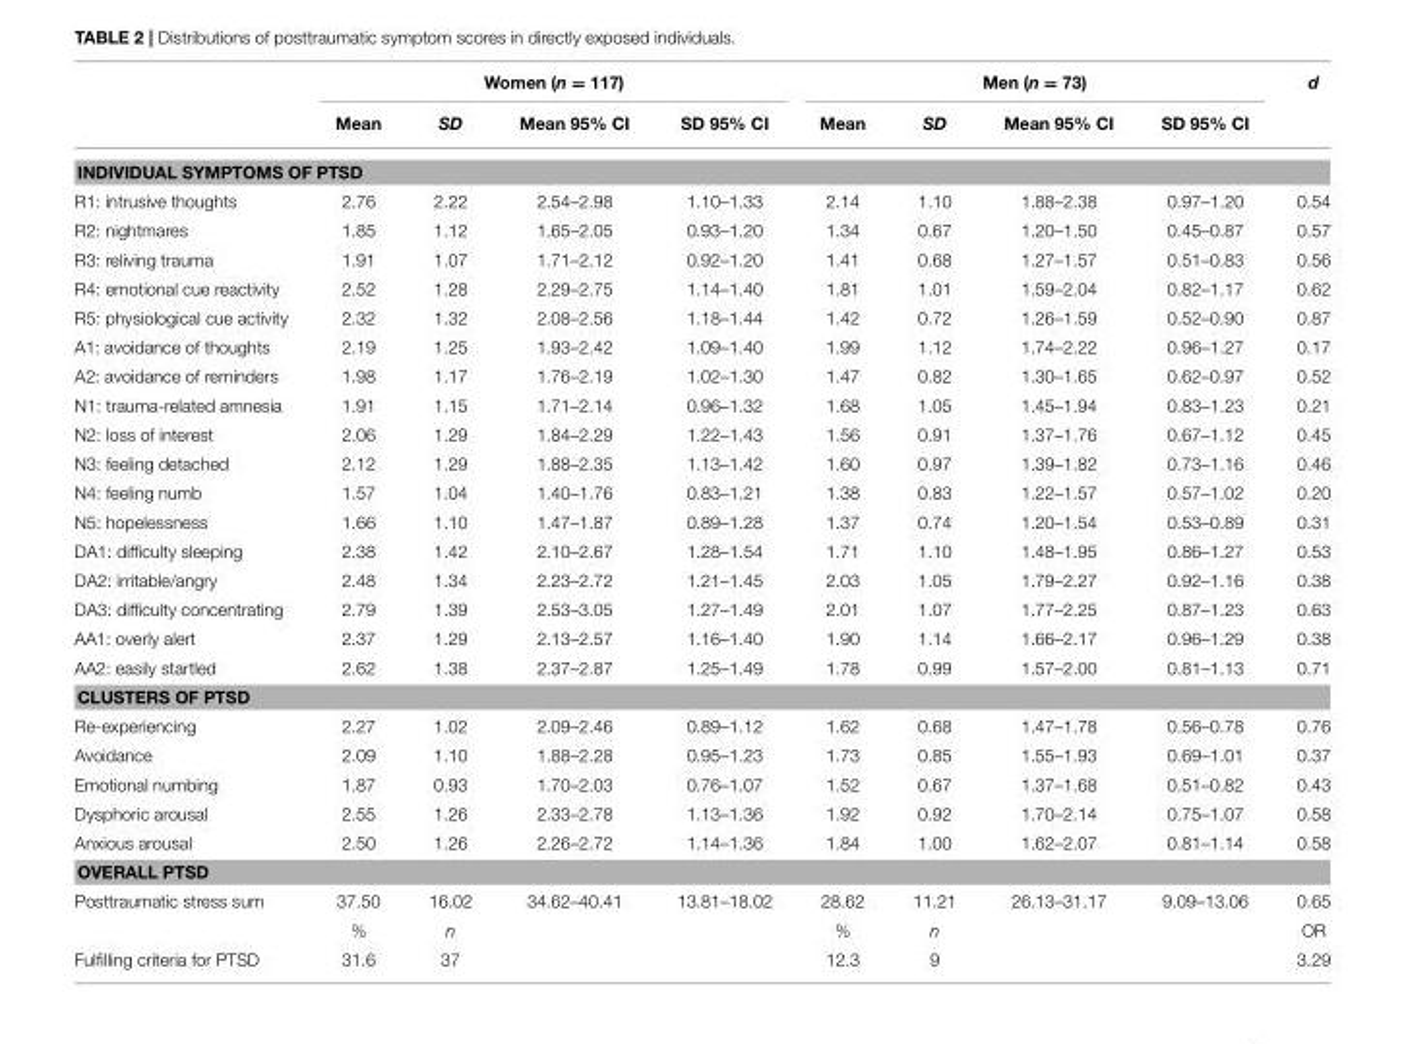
<table><thead><tr><td rowspan="2"></td><td colspan="4">Women (n = 117)</td><td colspan="4">Men (n = 73)</td><td rowspan="2">d</td></tr><tr><td>Mean</td><td>SD</td><td>Mean 95% CI</td><td>SD 95% CI</td><td>Mean</td><td>SD</td><td>Mean 95% CI</td><td>SD 95% CI</td></tr></thead><tbody><tr><td colspan="10">INDIVIDUAL SYMPTOMS OF PTSD</td></tr><tr><td>R1: intrusive thoughts</td><td>2.76</td><td>2.22</td><td>2.54–2.98</td><td>1.10–1.33</td><td>2.14</td><td>1.10</td><td>1.88–2.38</td><td>0.97–1.20</td><td>0.54</td></tr><tr><td>R2: nightmares</td><td>1.85</td><td>1.12</td><td>1.65–2.05</td><td>0.93–1.20</td><td>1.34</td><td>0.67</td><td>1.20–1.50</td><td>0.45–0.87</td><td>0.57</td></tr><tr><td>R3: reliving trauma</td><td>1.91</td><td>1.07</td><td>1.71–2.12</td><td>0.92–1.20</td><td>1.41</td><td>0.68</td><td>1.27–1.57</td><td>0.51–0.83</td><td>0.56</td></tr><tr><td>R4: emotional cue reactivity</td><td>2.52</td><td>1.28</td><td>2.29–2.75</td><td>1.14–1.40</td><td>1.81</td><td>1.01</td><td>1.59–2.04</td><td>0.82–1.17</td><td>0.62</td></tr><tr><td>R5: physiological cue activity</td><td>2.32</td><td>1.32</td><td>2.08–2.56</td><td>1.18–1.44</td><td>1.42</td><td>0.72</td><td>1.26–1.59</td><td>0.52–0.90</td><td>0.87</td></tr><tr><td>A1: avoidance of thoughts</td><td>2.19</td><td>1.25</td><td>1.93–2.42</td><td>1.09–1.40</td><td>1.99</td><td>1.12</td><td>1.74–2.22</td><td>0.96–1.27</td><td>0.17</td></tr><tr><td>A2: avoidance of reminders</td><td>1.98</td><td>1.17</td><td>1.76–2.19</td><td>1.02–1.30</td><td>1.47</td><td>0.82</td><td>1.30–1.65</td><td>0.62–0.97</td><td>0.52</td></tr><tr><td>N1: trauma-related amnesia</td><td>1.91</td><td>1.15</td><td>1.71–2.14</td><td>0.96–1.32</td><td>1.68</td><td>1.05</td><td>1.45–1.94</td><td>0.83–1.23</td><td>0.21</td></tr><tr><td>N2: loss of interest</td><td>2.06</td><td>1.29</td><td>1.84–2.29</td><td>1.22–1.43</td><td>1.56</td><td>0.91</td><td>1.37–1.76</td><td>0.67–1.12</td><td>0.45</td></tr><tr><td>N3: feeling detached</td><td>2.12</td><td>1.29</td><td>1.88–2.35</td><td>1.13–1.42</td><td>1.60</td><td>0.97</td><td>1.39–1.82</td><td>0.73–1.16</td><td>0.46</td></tr><tr><td>N4: feeling numb</td><td>1.57</td><td>1.04</td><td>1.40–1.76</td><td>0.83–1.21</td><td>1.38</td><td>0.83</td><td>1.22–1.57</td><td>0.57–1.02</td><td>0.20</td></tr><tr><td>N5: hopelessness</td><td>1.66</td><td>1.10</td><td>1.47–1.87</td><td>0.89–1.28</td><td>1.37</td><td>0.74</td><td>1.20–1.54</td><td>0.53–0.89</td><td>0.31</td></tr><tr><td>DA1: difficulty sleeping</td><td>2.38</td><td>1.42</td><td>2.10–2.67</td><td>1.28–1.54</td><td>1.71</td><td>1.10</td><td>1.48–1.95</td><td>0.86–1.27</td><td>0.53</td></tr><tr><td>DA2: irritable/angry</td><td>2.48</td><td>1.34</td><td>2.23–2.72</td><td>1.21–1.45</td><td>2.03</td><td>1.05</td><td>1.79–2.27</td><td>0.92–1.16</td><td>0.38</td></tr><tr><td>DA3: difficulty concentrating</td><td>2.79</td><td>1.39</td><td>2.53–3.05</td><td>1.27–1.49</td><td>2.01</td><td>1.07</td><td>1.77–2.25</td><td>0.87–1.23</td><td>0.63</td></tr><tr><td>AA1: overly alert</td><td>2.37</td><td>1.29</td><td>2.13–2.57</td><td>1.16–1.40</td><td>1.90</td><td>1.14</td><td>1.66–2.17</td><td>0.96–1.29</td><td>0.38</td></tr><tr><td>AA2: easily startled</td><td>2.62</td><td>1.38</td><td>2.37–2.87</td><td>1.25–1.49</td><td>1.78</td><td>0.99</td><td>1.57–2.00</td><td>0.81–1.13</td><td>0.71</td></tr><tr><td colspan="10">CLUSTERS OF PTSD</td></tr><tr><td>Re-experiencing</td><td>2.27</td><td>1.02</td><td>2.09–2.46</td><td>0.89–1.12</td><td>1.62</td><td>0.68</td><td>1.47–1.78</td><td>0.56–0.78</td><td>0.76</td></tr><tr><td>Avoidance</td><td>2.09</td><td>1.10</td><td>1.88–2.28</td><td>0.95–1.23</td><td>1.73</td><td>0.85</td><td>1.55–1.93</td><td>0.69–1.01</td><td>0.37</td></tr><tr><td>Emotional numbing</td><td>1.87</td><td>0.93</td><td>1.70–2.03</td><td>0.76–1.07</td><td>1.52</td><td>0.67</td><td>1.37–1.68</td><td>0.51–0.82</td><td>0.43</td></tr><tr><td>Dysphoric arousal</td><td>2.55</td><td>1.26</td><td>2.33–2.78</td><td>1.13–1.36</td><td>1.92</td><td>0.92</td><td>1.70–2.14</td><td>0.75–1.07</td><td>0.58</td></tr><tr><td>Anxious arousal</td><td>2.50</td><td>1.26</td><td>2.26–2.72</td><td>1.14–1.36</td><td>1.84</td><td>1.00</td><td>1.62–2.07</td><td>0.81–1.14</td><td>0.58</td></tr><tr><td colspan="10">OVERALL PTSD</td></tr><tr><td rowspan="2">Posttraumatic stress sum</td><td>37.50</td><td>16.02</td><td>34.62–40.41</td><td>13.81–18.02</td><td>28.62</td><td>11.21</td><td>26.13–31.17</td><td>9.09–13.06</td><td>0.65</td></tr><tr><td>%</td><td>n</td><td></td><td></td><td>%</td><td>n</td><td></td><td></td><td>OR</td></tr><tr><td>Fulfilling criteria for PTSD</td><td>31.6</td><td>37</td><td></td><td></td><td>12.3</td><td>9</td><td></td><td></td><td>3.29</td></tr></tbody></table>